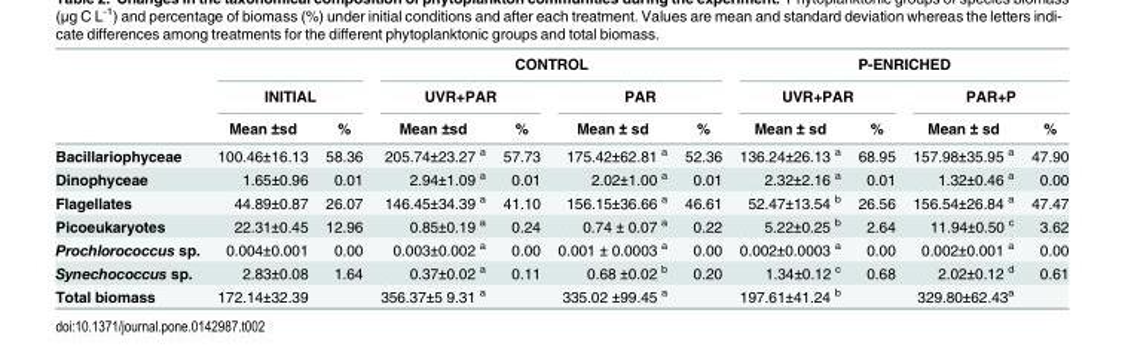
<table><thead><tr><td rowspan="3"></td><td></td><td></td><td colspan="4">CONTROL</td><td colspan="4">P-ENRICHED</td></tr><tr><td colspan="2">INITIAL</td><td colspan="2">UVR+PAR</td><td colspan="2">PAR</td><td colspan="2">UVR+PAR</td><td colspan="2">PAR+P</td></tr><tr><td>Mean ±sd</td><td>%</td><td>Mean ±sd</td><td>%</td><td>Mean ± sd</td><td>%</td><td>Mean ± sd</td><td>%</td><td>Mean ± sd</td><td>%</td></tr></thead><tbody><tr><td>Bacillariophyceae</td><td>100.46±16.13</td><td>58.36</td><td>205.74±23.27 <sup>a</sup></td><td>57.73</td><td>175.42±62.81 <sup>a</sup></td><td>52.36</td><td>136.24±26.13 <sup>a</sup></td><td>68.95</td><td>157.98±35.95 <sup>a</sup></td><td>47.90</td></tr><tr><td>Dinophyceae</td><td>1.65±0.96</td><td>0.01</td><td>2.94±1.09 <sup>a</sup></td><td>0.01</td><td>2.02±1.00 <sup>a</sup></td><td>0.01</td><td>2.32±2.16 <sup>a</sup></td><td>0.01</td><td>1.32±0.46 <sup>a</sup></td><td>0.00</td></tr><tr><td>Flagellates</td><td>44.89±0.87</td><td>26.07</td><td>146.45±34.39 <sup>a</sup></td><td>41.10</td><td>156.15±36.66 <sup>a</sup></td><td>46.61</td><td>52.47±13.54 <sup>b</sup></td><td>26.56</td><td>156.54±26.84 <sup>a</sup></td><td>47.47</td></tr><tr><td>Picoeukaryotes</td><td>22.31±0.45</td><td>12.96</td><td>0.85±0.19 <sup>a</sup></td><td>0.24</td><td>0.74 ± 0.07 <sup>a</sup></td><td>0.22</td><td>5.22±0.25 <sup>b</sup></td><td>2.64</td><td>11.94±0.50 <sup>c</sup></td><td>3.62</td></tr><tr><td>Prochlorococcus sp.</td><td>0.004±0.001</td><td>0.00</td><td>0.003±0.002 <sup>a</sup></td><td>0.00</td><td>0.001 ± 0.0003 <sup>a</sup></td><td>0.00</td><td>0.002±0.0003 <sup>a</sup></td><td>0.00</td><td>0.002±0.001 <sup>a</sup></td><td>0.00</td></tr><tr><td>Synechococcus sp.</td><td>2.83±0.08</td><td>1.64</td><td>0.37±0.02 <sup>a</sup></td><td>0.11</td><td>0.68 ±0.02 <sup>b</sup></td><td>0.20</td><td>1.34±0.12 <sup>c</sup></td><td>0.68</td><td>2.02±0.12 <sup>d</sup></td><td>0.61</td></tr><tr><td>Total biomass</td><td>172.14±32.39</td><td></td><td>356.37±5 9.31 <sup>a</sup></td><td></td><td>335.02 ±99.45 <sup>a</sup></td><td></td><td>197.61±41.24 <sup>b</sup></td><td></td><td>329.80±62.43<sup>a</sup></td><td></td></tr></tbody></table>